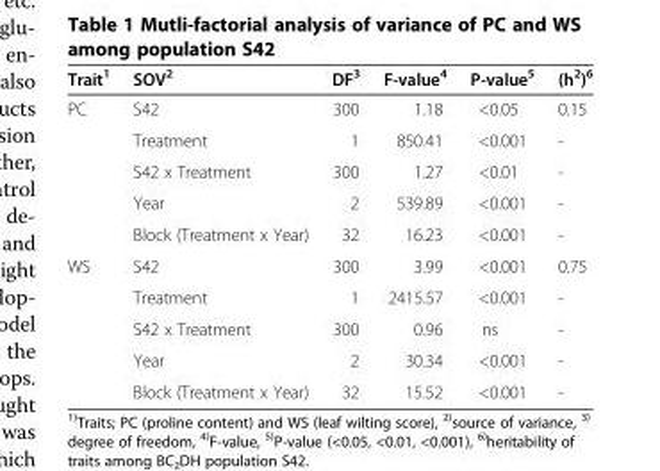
<table><thead><tr><td>Trait<sup>1</sup></td><td>SOV<sup>2</sup></td><td>DF<sup>3</sup></td><td>F-value<sup>4</sup></td><td>P-value<sup>5</sup></td><td>(h<sup>2</sup>)<sup>6</sup></td></tr></thead><tbody><tr><td rowspan="5">PC</td><td>S42</td><td>300</td><td>1.18</td><td>&lt;0.05</td><td>0.15</td></tr><tr><td>Treatment</td><td>1</td><td>850.41</td><td>&lt;0.001</td><td>-</td></tr><tr><td>S42 x Treatment</td><td>300</td><td>1.27</td><td>&lt;0.01</td><td>-</td></tr><tr><td>Year</td><td>2</td><td>539.89</td><td>&lt;0.001</td><td>-</td></tr><tr><td>Block (Treatment x Year)</td><td>32</td><td>16.23</td><td>&lt;0.001</td><td>-</td></tr><tr><td rowspan="5">WS</td><td>S42</td><td>300</td><td>3.99</td><td>&lt;0.001</td><td>0.75</td></tr><tr><td>Treatment</td><td>1</td><td>2415.57</td><td>&lt;0.001</td><td>-</td></tr><tr><td>S42 x Treatment</td><td>300</td><td>0.96</td><td>ns</td><td>-</td></tr><tr><td>Year</td><td>2</td><td>30.34</td><td>&lt;0.001</td><td>-</td></tr><tr><td>Block (Treatment x Year)</td><td>32</td><td>15.52</td><td>&lt;0.001</td><td>-</td></tr></tbody></table>